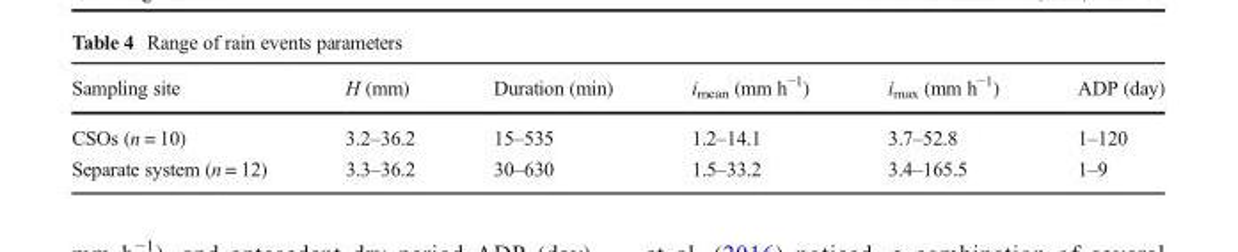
<table><thead><tr><td>Sampling site</td><td>H (mm)</td><td>Duration (min)</td><td>i<sub>mean</sub> (mm h<sup>−1</sup>)</td><td>i<sub>max</sub> (mm h<sup>−1</sup>)</td><td>ADP (day)</td></tr></thead><tbody><tr><td>CSOs (n = 10)</td><td>3.2–36.2</td><td>15–535</td><td>1.2–14.1</td><td>3.7–52.8</td><td>1–120</td></tr><tr><td>Separate system (n = 12)</td><td>3.3–36.2</td><td>30–630</td><td>1.5–33.2</td><td>3.4–165.5</td><td>1–9</td></tr></tbody></table>